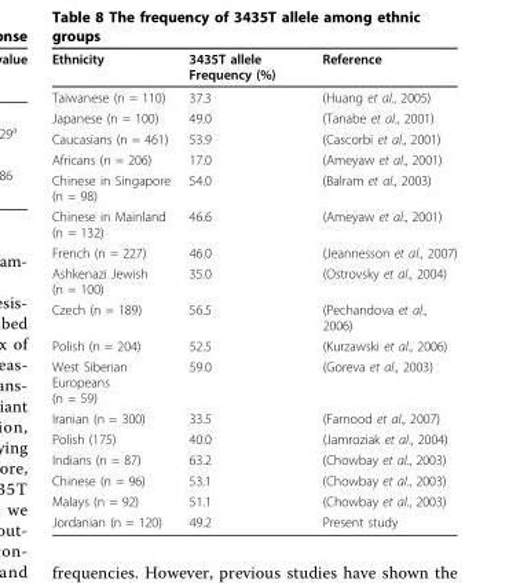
<table><thead><tr><td>Ethnicity</td><td>3435T allele Frequency (%)</td><td>Reference</td></tr></thead><tbody><tr><td>Taiwanese (n = 110)</td><td>37.3</td><td>(Huang et al., 2005)</td></tr><tr><td>Japanese (n = 100)</td><td>49.0</td><td>(Tanabe et al., 2001)</td></tr><tr><td>Caucasians (n = 461)</td><td>53.9</td><td>(Cascorbi et al., 2001)</td></tr><tr><td>Africans (n = 206)</td><td>17.0</td><td>(Ameyaw et al., 2001)</td></tr><tr><td>Chinese in Singapore (n = 98)</td><td>54.0</td><td>(Balram et al., 2003)</td></tr><tr><td>Chinese in Mainland (n = 132)</td><td>46.6</td><td>(Ameyaw et al., 2001)</td></tr><tr><td>French (n = 227)</td><td>46.0</td><td>(Jeannesson et al., 2007)</td></tr><tr><td>Ashkenazi Jewish (n = 100)</td><td>35.0</td><td>(Ostrovsky et al., 2004)</td></tr><tr><td>Czech (n = 189)</td><td>56.5</td><td>(Pechandova et al., 2006)</td></tr><tr><td>Polish (n = 204)</td><td>52.5</td><td>(Kurzawski et al., 2006)</td></tr><tr><td>West Siberian Europeans (n = 59)</td><td>59.0</td><td>(Goreva et al., 2003)</td></tr><tr><td>Iranian (n = 300)</td><td>33.5</td><td>(Farnood et al., 2007)</td></tr><tr><td>Polish (175)</td><td>40.0</td><td>(Jamroziak et al., 2004)</td></tr><tr><td>Indians (n = 87)</td><td>63.2</td><td>(Chowbay et al., 2003)</td></tr><tr><td>Chinese (n = 96)</td><td>53.1</td><td>(Chowbay et al., 2003)</td></tr><tr><td>Malays (n = 92)</td><td>51.1</td><td>(Chowbay et al., 2003)</td></tr><tr><td>Jordanian (n = 120)</td><td>49.2</td><td>Present study</td></tr></tbody></table>